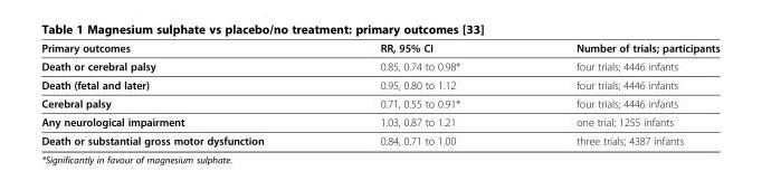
<table><thead><tr><td>Primary outcomes</td><td>RR, 95% CI</td><td>Number of trials; participants</td></tr></thead><tbody><tr><td>Death or cerebral palsy</td><td>0.85, 0.74 to 0.98*</td><td>four trials; 4446 infants</td></tr><tr><td>Death (fetal and later)</td><td>0.95, 0.80 to 1.12</td><td>four trials; 4446 infants</td></tr><tr><td>Cerebral palsy</td><td>0.71, 0.55 to 0.91*</td><td>four trials; 4446 infants</td></tr><tr><td>Any neurological impairment</td><td>1.03, 0.87 to 1.21</td><td>one trial; 1255 infants</td></tr><tr><td>Death or substantial gross motor dysfunction</td><td>0.84, 0.71 to 1.00</td><td>three trials; 4387 infants</td></tr></tbody></table>